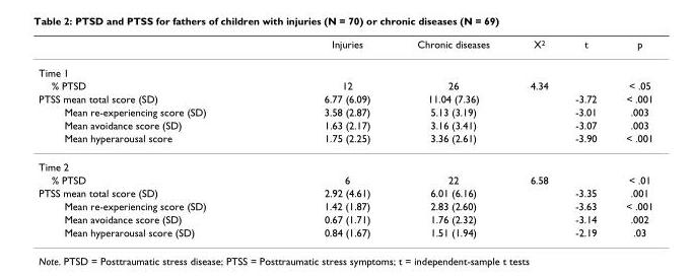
<table><thead><tr><td></td><td>Injuries</td><td>Chronic diseases</td><td>X<sup>2</sup></td><td>t</td><td>p</td></tr></thead><tbody><tr><td colspan="6">Time 1</td></tr><tr><td>% PTSD</td><td>12</td><td>26</td><td>4.34</td><td></td><td>&lt; .05</td></tr><tr><td>PTSS mean total score (SD)</td><td>6.77 (6.09)</td><td>11.04 (7.36)</td><td></td><td>-3.72</td><td>&lt; .001</td></tr><tr><td>Mean re-experiencing score (SD)</td><td>3.58 (2.87)</td><td>5.13 (3.19)</td><td></td><td>-3.01</td><td>.003</td></tr><tr><td>Mean avoidance score (SD)</td><td>1.63 (2.17)</td><td>3.16 (3.41)</td><td></td><td>-3.07</td><td>.003</td></tr><tr><td>Mean hyperarousal score</td><td>1.75 (2.25)</td><td>3.36 (2.61)</td><td></td><td>-3.90</td><td>&lt; .001</td></tr><tr><td colspan="6">Time 2</td></tr><tr><td>% PTSD</td><td>6</td><td>22</td><td>6.58</td><td></td><td>&lt; .01</td></tr><tr><td>PTSS mean total score (SD)</td><td>2.92 (4.61)</td><td>6.01 (6.16)</td><td></td><td>-3.35</td><td>.001</td></tr><tr><td>Mean re-experiencing score (SD)</td><td>1.42 (1.87)</td><td>2.83 (2.60)</td><td></td><td>-3.63</td><td>&lt; .001</td></tr><tr><td>Mean avoidance score (SD)</td><td>0.67 (1.71)</td><td>1.76 (2.32)</td><td></td><td>-3.14</td><td>.002</td></tr><tr><td>Mean hyperarousal score (SD)</td><td>0.84 (1.67)</td><td>1.51 (1.94)</td><td></td><td>-2.19</td><td>.03</td></tr></tbody></table>